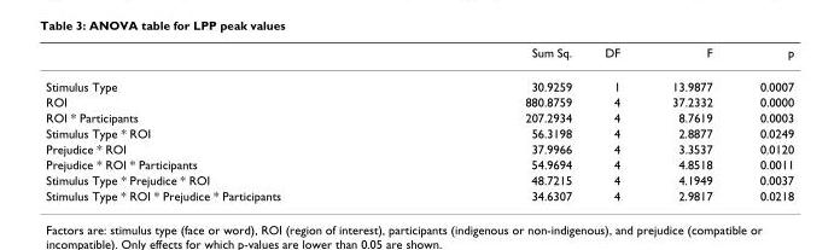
<table><thead><tr><td></td><td>Sum Sq.</td><td>DF</td><td>F</td><td>p</td></tr></thead><tbody><tr><td>Stimulus Type</td><td>30.9259</td><td>1</td><td>13.9877</td><td>0.0007</td></tr><tr><td>ROI</td><td>880.8759</td><td>4</td><td>37.2332</td><td>0.0000</td></tr><tr><td>ROI * Participants</td><td>207.2934</td><td>4</td><td>8.7619</td><td>0.0003</td></tr><tr><td>Stimulus Type * ROI</td><td>56.3198</td><td>4</td><td>2.8877</td><td>0.0249</td></tr><tr><td>Prejudice * ROI</td><td>37.9966</td><td>4</td><td>3.3537</td><td>0.0120</td></tr><tr><td>Prejudice * ROI * Participants</td><td>54.9694</td><td>4</td><td>4.8518</td><td>0.0011</td></tr><tr><td>Stimulus Type * Prejudice * ROI</td><td>48.7215</td><td>4</td><td>4.1949</td><td>0.0037</td></tr><tr><td>Stimulus Type * ROI * Prejudice * Participants</td><td>34.6307</td><td>4</td><td>2.9817</td><td>0.0218</td></tr></tbody></table>